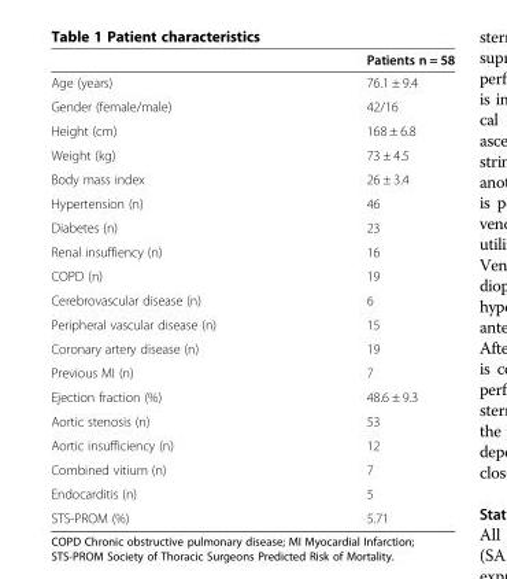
<table><thead><tr><td></td><td>Patients n = 58</td></tr></thead><tbody><tr><td>Age (years)</td><td>76.1 ± 9.4</td></tr><tr><td>Gender (female/male)</td><td>42/16</td></tr><tr><td>Height (cm)</td><td>168 ± 6.8</td></tr><tr><td>Weight (kg)</td><td>73 ± 4.5</td></tr><tr><td>Body mass index</td><td>26 ± 3.4</td></tr><tr><td>Hypertension (n)</td><td>46</td></tr><tr><td>Diabetes (n)</td><td>23</td></tr><tr><td>Renal insuffiency (n)</td><td>16</td></tr><tr><td>COPD (n)</td><td>19</td></tr><tr><td>Cerebrovascular disease (n)</td><td>6</td></tr><tr><td>Peripheral vascular disease (n)</td><td>15</td></tr><tr><td>Coronary artery disease (n)</td><td>19</td></tr><tr><td>Previous MI (n)</td><td>7</td></tr><tr><td>Ejection fraction (%)</td><td>48.6 ± 9.3</td></tr><tr><td>Aortic stenosis (n)</td><td>53</td></tr><tr><td>Aortic insufficiency (n)</td><td>12</td></tr><tr><td>Combined vitium (n)</td><td>7</td></tr><tr><td>Endocarditis (n)</td><td>5</td></tr><tr><td>STS-PROM (%)</td><td>5.71</td></tr></tbody></table>